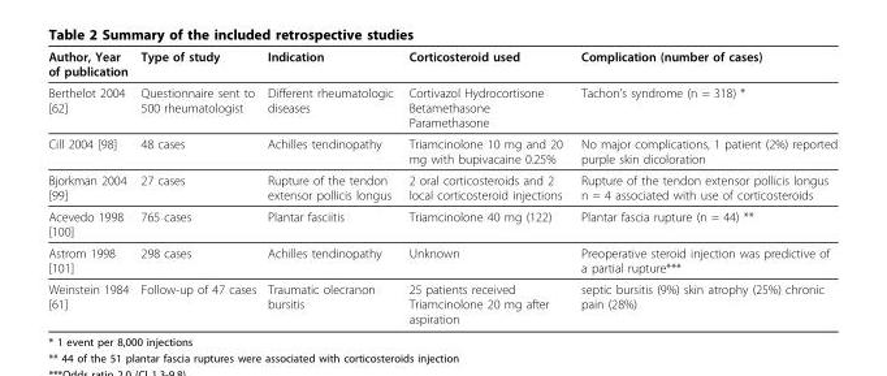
<table><thead><tr><td>Author, Year of publication</td><td>Type of study</td><td>Indication</td><td>Corticosteroid used</td><td>Complication (number of cases)</td></tr></thead><tbody><tr><td>Berthelot 2004 [62]</td><td>Questionnaire sent to 500 rheumatologist</td><td>Different rheumatologic diseases</td><td>Cortivazol Hydrocortisone Betamethasone Paramethasone</td><td>Tachon’s syndrome (n = 318) *</td></tr><tr><td>Cill 2004 [98]</td><td>48 cases</td><td>Achilles tendinopathy</td><td>Triamcinolone 10 mg and 20 mg with bupivacaine 0.25%</td><td>No major complications, 1 patient (2%) reported purple skin dicoloration</td></tr><tr><td>Bjorkman 2004 [99]</td><td>27 cases</td><td>Rupture of the tendon extensor pollicis longus</td><td>2 oral corticosteroids and 2 local corticosteroid injections</td><td>Rupture of the tendon extensor pollicis longus n = 4 associated with use of corticosteroids</td></tr><tr><td>Acevedo 1998 [100]</td><td>765 cases</td><td>Plantar fasciitis</td><td>Triamcinolone 40 mg (122)</td><td>Plantar fascia rupture (n = 44) **</td></tr><tr><td>Astrom 1998 [101]</td><td>298 cases</td><td>Achilles tendinopathy</td><td>Unknown</td><td>Preoperative steroid injection was predictive of a partial rupture***</td></tr><tr><td>Weinstein 1984 [61]</td><td>Follow-up of 47 cases</td><td>Traumatic olecranon bursitis</td><td>25 patients received Triamcinolone 20 mg after aspiration</td><td>septic bursitis (9%) skin atrophy (25%) chronic pain (28%)</td></tr></tbody></table>